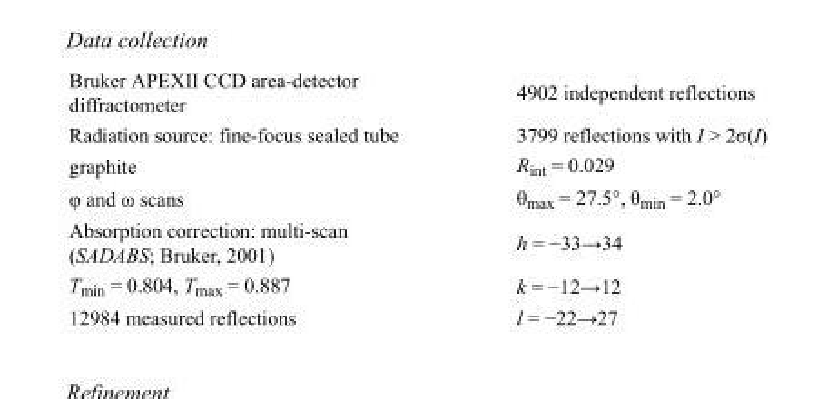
<table><tbody><tr><td>Bruker APEXII CCD area-detector diffractometer</td><td>4902 independent reflections</td></tr><tr><td>Radiation source: fine-focus sealed tube</td><td>3799 reflections with I &gt; 2σ(I)</td></tr><tr><td>graphite</td><td>R<sub>int</sub> = 0.029</td></tr><tr><td>φ and ω scans</td><td>θ<sub>max</sub> = 27.5°, θ<sub>min</sub> = 2.0°</td></tr><tr><td>Absorption correction: multi-scan (SADABS; Bruker, 2001)</td><td>h = −33→34</td></tr><tr><td>T<sub>min</sub> = 0.804, T<sub>max</sub> = 0.887</td><td>k = −12→12</td></tr><tr><td>12984 measured reflections</td><td>l = −22→27</td></tr></tbody></table>